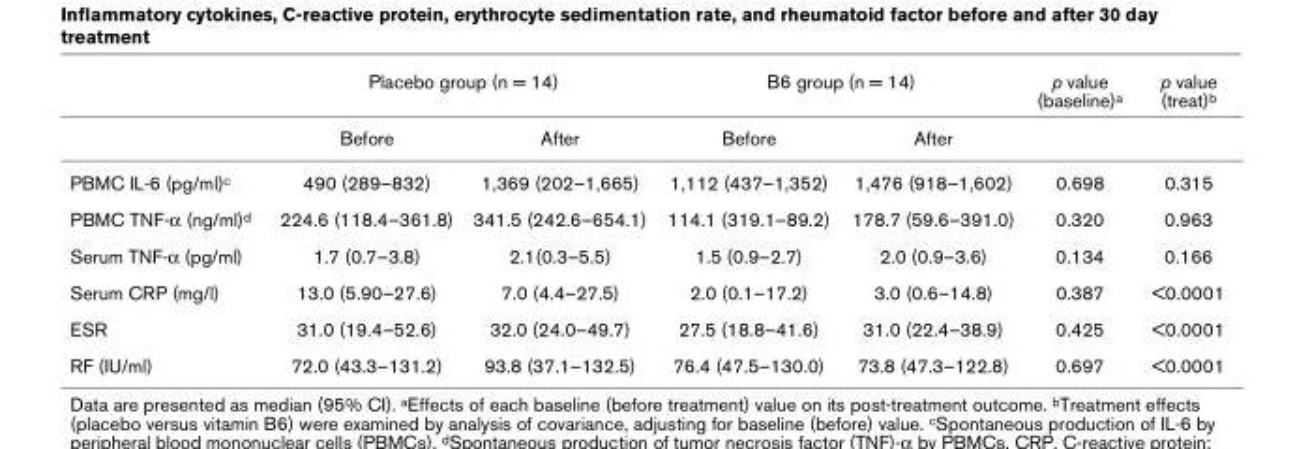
<table><thead><tr><td rowspan="2"></td><td colspan="2">Placebo group (n = 14)</td><td colspan="2">B6 group (n = 14)</td><td rowspan="2">p value (baseline)a</td><td rowspan="2">p value (treat)b</td></tr><tr><td>Before</td><td>After</td><td>Before</td><td>After</td></tr></thead><tbody><tr><td>PBMC IL-6 (pg/ml)c</td><td>490 (289–832)</td><td>1,369 (202–1,665)</td><td>1,112 (437–1,352)</td><td>1,476 (918–1,602)</td><td>0.698</td><td>0.315</td></tr><tr><td>PBMC TNF-α (ng/ml)d</td><td>224.6 (118.4–361.8)</td><td>341.5 (242.6–654.1)</td><td>114.1 (319.1–89.2)</td><td>178.7 (59.6–391.0)</td><td>0.320</td><td>0.963</td></tr><tr><td>Serum TNF-α (pg/ml)</td><td>1.7 (0.7–3.8)</td><td>2.1(0.3–5.5)</td><td>1.5 (0.9–2.7)</td><td>2.0 (0.9–3.6)</td><td>0.134</td><td>0.166</td></tr><tr><td>Serum CRP (mg/l)</td><td>13.0 (5.90–27.6)</td><td>7.0 (4.4–27.5)</td><td>2.0 (0.1–17.2)</td><td>3.0 (0.6–14.8)</td><td>0.387</td><td>&lt;0.0001</td></tr><tr><td>ESR</td><td>31.0 (19.4–52.6)</td><td>32.0 (24.0–49.7)</td><td>27.5 (18.8–41.6)</td><td>31.0 (22.4–38.9)</td><td>0.425</td><td>&lt;0.0001</td></tr><tr><td>RF (IU/ml)</td><td>72.0 (43.3–131.2)</td><td>93.8 (37.1–132.5)</td><td>76.4 (47.5–130.0)</td><td>73.8 (47.3–122.8)</td><td>0.697</td><td>&lt;0.0001</td></tr></tbody></table>